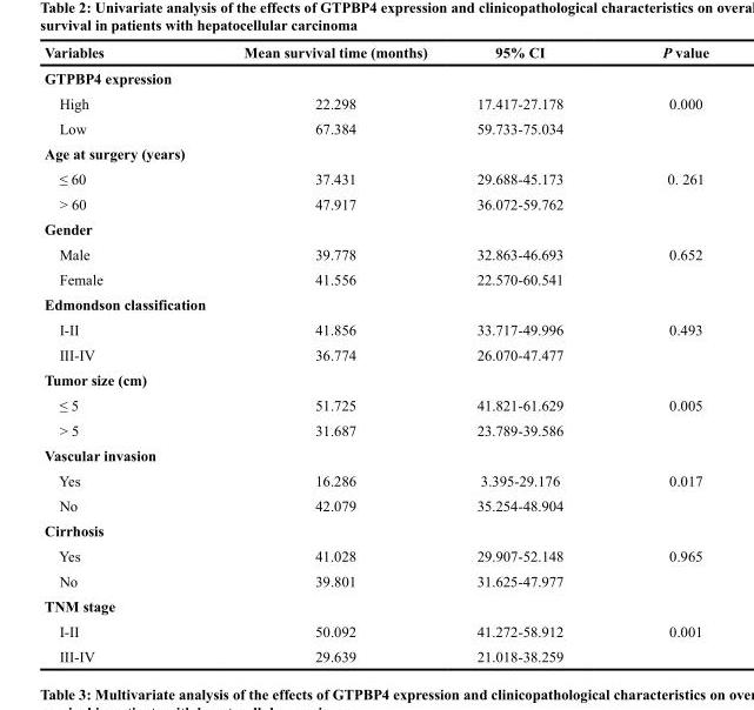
<table><thead><tr><td>Variables</td><td>Mean survival time (months)</td><td>95% CI</td><td>P value</td></tr></thead><tbody><tr><td colspan="4">GTPBP4 expression</td></tr><tr><td>High</td><td>22.298</td><td>17.417-27.178</td><td>0.000</td></tr><tr><td>Low</td><td>67.384</td><td>59.733-75.034</td><td></td></tr><tr><td colspan="4">Age at surgery (years)</td></tr><tr><td>≤ 60</td><td>37.431</td><td>29.688-45.173</td><td>0. 261</td></tr><tr><td>&gt; 60</td><td>47.917</td><td>36.072-59.762</td><td></td></tr><tr><td colspan="4">Gender</td></tr><tr><td>Male</td><td>39.778</td><td>32.863-46.693</td><td>0.652</td></tr><tr><td>Female</td><td>41.556</td><td>22.570-60.541</td><td></td></tr><tr><td colspan="4">Edmondson classification</td></tr><tr><td>I-II</td><td>41.856</td><td>33.717-49.996</td><td>0.493</td></tr><tr><td>III-IV</td><td>36.774</td><td>26.070-47.477</td><td></td></tr><tr><td colspan="4">Tumor size (cm)</td></tr><tr><td>≤ 5</td><td>51.725</td><td>41.821-61.629</td><td>0.005</td></tr><tr><td>&gt; 5</td><td>31.687</td><td>23.789-39.586</td><td></td></tr><tr><td colspan="4">Vascular invasion</td></tr><tr><td>Yes</td><td>16.286</td><td>3.395-29.176</td><td>0.017</td></tr><tr><td>No</td><td>42.079</td><td>35.254-48.904</td><td></td></tr><tr><td colspan="4">Cirrhosis</td></tr><tr><td>Yes</td><td>41.028</td><td>29.907-52.148</td><td>0.965</td></tr><tr><td>No</td><td>39.801</td><td>31.625-47.977</td><td></td></tr><tr><td colspan="4">TNM stage</td></tr><tr><td>I-II</td><td>50.092</td><td>41.272-58.912</td><td>0.001</td></tr><tr><td>III-IV</td><td>29.639</td><td>21.018-38.259</td><td></td></tr></tbody></table>